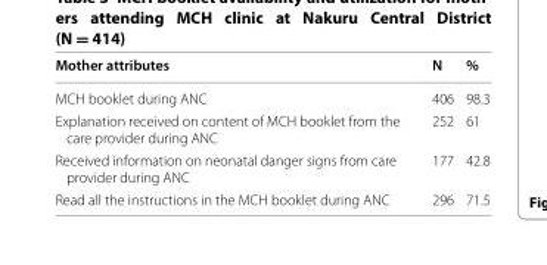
<table><thead><tr><td>Mother attributes</td><td>N</td><td>%</td></tr></thead><tbody><tr><td>MCH booklet during ANC</td><td>406</td><td>98.3</td></tr><tr><td>Explanation received on content of MCH booklet from the care provider during ANC</td><td>252</td><td>61</td></tr><tr><td>Received information on neonatal danger signs from care provider during ANC</td><td>177</td><td>42.8</td></tr><tr><td>Read all the instructions in the MCH booklet during ANC</td><td>296</td><td>71.5</td></tr></tbody></table>